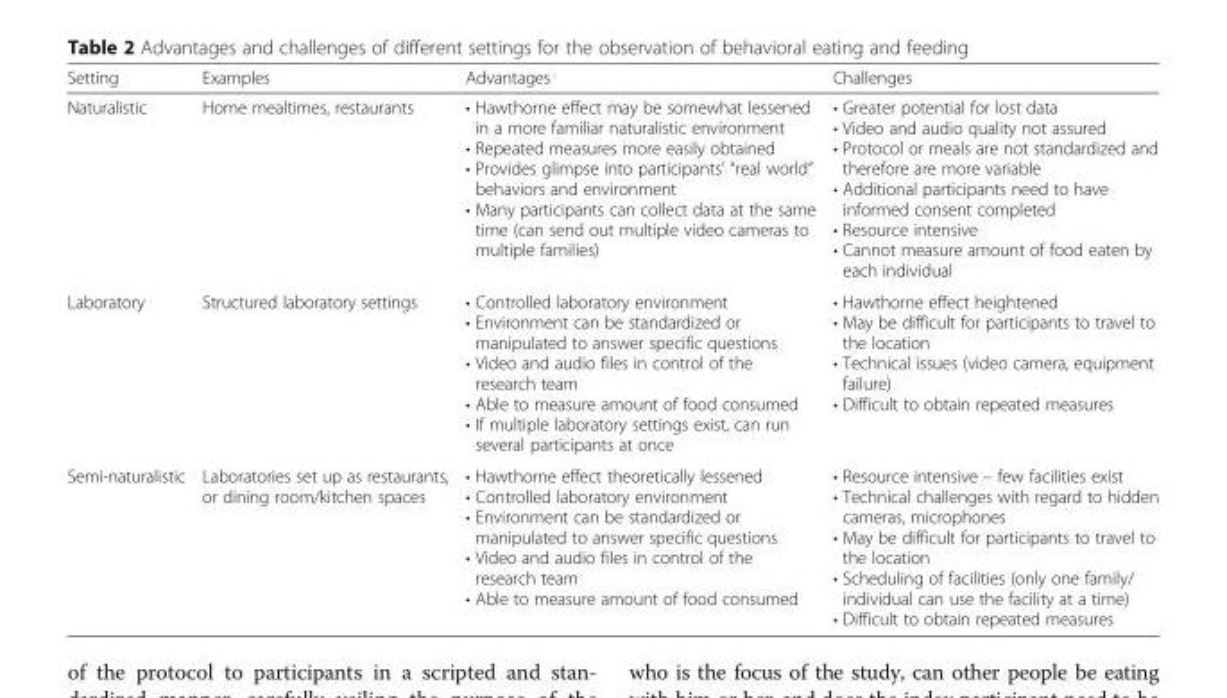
<table><thead><tr><td>Setting</td><td>Examples</td><td>Advantages</td><td>Challenges</td></tr></thead><tbody><tr><td>Naturalistic</td><td>Home mealtimes, restaurants</td><td>• Hawthorne effect may be somewhat lessened in a more familiar naturalistic environment • Repeated measures more easily obtained • Provides glimpse into participants’ “real world” behaviors and environment • Many participants can collect data at the same time (can send out multiple video cameras to multiple families)</td><td>• Greater potential for lost data • Video and audio quality not assured • Protocol or meals are not standardized and therefore are more variable • Additional participants need to have informed consent completed • Resource intensive • Cannot measure amount of food eaten by each individual</td></tr><tr><td>Laboratory</td><td>Structured laboratory settings</td><td>• Controlled laboratory environment • Environment can be standardized or manipulated to answer specific questions • Video and audio files in control of the research team • Able to measure amount of food consumed • If multiple laboratory settings exist, can run several participants at once</td><td>• Hawthorne effect heightened • May be difficult for participants to travel to the location • Technical issues (video camera, equipment failure) • Difficult to obtain repeated measures</td></tr><tr><td>Semi-naturalistic</td><td>Laboratories set up as restaurants, or dining room/kitchen spaces</td><td>• Hawthorne effect theoretically lessened • Controlled laboratory environment • Environment can be standardized or manipulated to answer specific questions • Video and audio files in control of the research team • Able to measure amount of food consumed</td><td>• Resource intensive – few facilities exist • Technical challenges with regard to hidden cameras, microphones • May be difficult for participants to travel to the location • Scheduling of facilities (only one family/ individual can use the facility at a time) • Difficult to obtain repeated measures</td></tr></tbody></table>